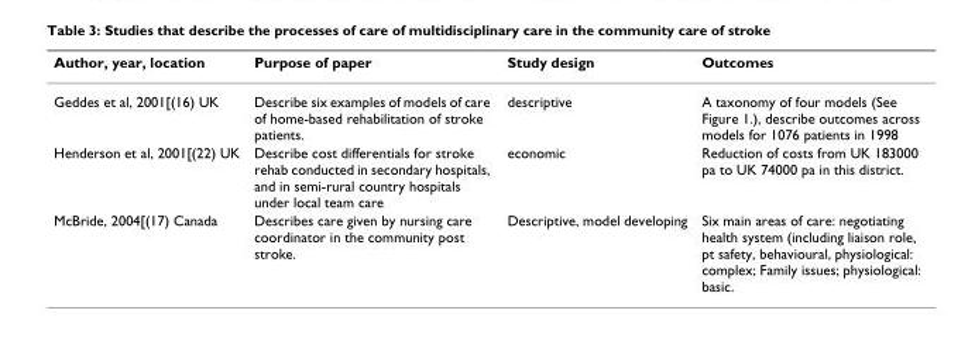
<table><thead><tr><td>Author, year, location</td><td>Purpose of paper</td><td>Study design</td><td>Outcomes</td></tr></thead><tbody><tr><td>Geddes et al, 2001[(16) UK</td><td>Describe six examples of models of care of home-based rehabilitation of stroke patients.</td><td>descriptive</td><td>A taxonomy of four models (See Figure 1.), describe outcomes across models for 1076 patients in 1998</td></tr><tr><td>Henderson et al, 2001[(22) UK</td><td>Describe cost differentials for stroke rehab conducted in secondary hospitals, and in semi-rural country hospitals under local team care</td><td>economic</td><td>Reduction of costs from UK 183000 pa to UK 74000 pa in this district.</td></tr><tr><td>McBride, 2004[(17) Canada</td><td>Describes care given by nursing care coordinator in the community post stroke.</td><td>Descriptive, model developing</td><td>Six main areas of care: negotiating health system (including liaison role, pt safety, behavioural, physiological: complex; Family issues; physiological: basic.</td></tr></tbody></table>